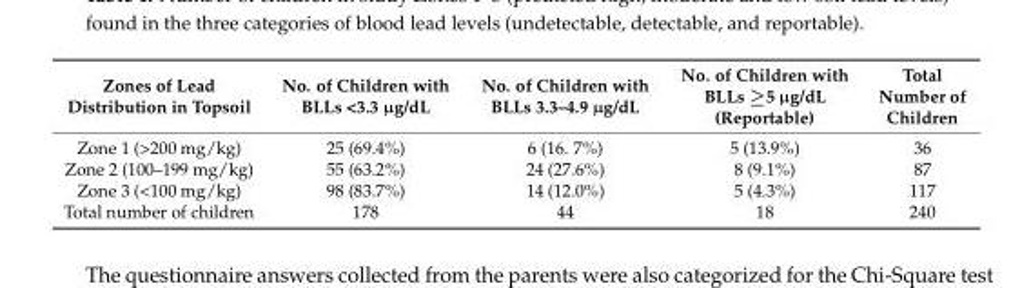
<table><thead><tr><td>Zones of Lead Distribution in Topsoil</td><td>No. of Children with BLLs &lt;3.3 µg/dL</td><td>No. of Children with BLLs 3.3–4.9 µg/dL</td><td>No. of Children with BLLs ≥5 µg/dL (Reportable)</td><td>Total Number of Children</td></tr></thead><tbody><tr><td>Zone 1 (&gt;200 mg/kg)</td><td>25 (69.4%)</td><td>6 (16. 7%)</td><td>5 (13.9%)</td><td>36</td></tr><tr><td>Zone 2 (100–199 mg/kg)</td><td>55 (63.2%)</td><td>24 (27.6%)</td><td>8 (9.1%)</td><td>87</td></tr><tr><td>Zone 3 (&lt;100 mg/kg)</td><td>98 (83.7%)</td><td>14 (12.0%)</td><td>5 (4.3%)</td><td>117</td></tr><tr><td>Total number of children</td><td>178</td><td>44</td><td>18</td><td>240</td></tr></tbody></table>